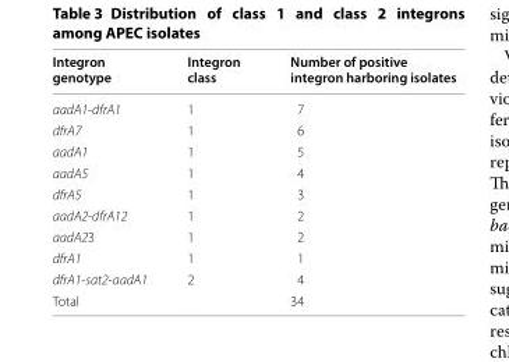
<table><thead><tr><td>Integron genotype</td><td>Integron class</td><td>Number of positive integron harboring isolates</td></tr></thead><tbody><tr><td>aadA1-dfrA1</td><td>1</td><td>7</td></tr><tr><td>dfrA7</td><td>1</td><td>6</td></tr><tr><td>aadA1</td><td>1</td><td>5</td></tr><tr><td>aadA5</td><td>1</td><td>4</td></tr><tr><td>dfrA5</td><td>1</td><td>3</td></tr><tr><td>aadA2-dfrA12</td><td>1</td><td>2</td></tr><tr><td>aadA23</td><td>1</td><td>2</td></tr><tr><td>dfrA1</td><td>1</td><td>1</td></tr><tr><td>dfrA1-sat2-aadA1</td><td>2</td><td>4</td></tr><tr><td>Total</td><td></td><td>34</td></tr></tbody></table>